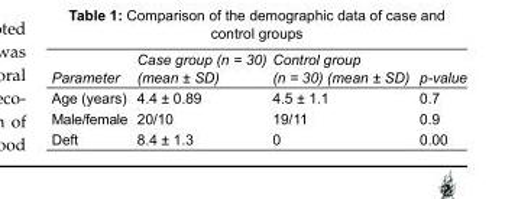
<table><tbody><tr><td>Parameter</td><td>Case group (n = 30) (mean ± SD)</td><td>Control group (n = 30) (mean ± SD)</td><td>p-value</td></tr><tr><td>Age (years)</td><td>4.4 ± 0.89</td><td>4.5 ± 1.1</td><td>0.7</td></tr><tr><td>Male/female</td><td>20/10</td><td>19/11</td><td>0.9</td></tr><tr><td>Deft</td><td>8.4 ± 1.3</td><td>0</td><td>0.00</td></tr></tbody></table>